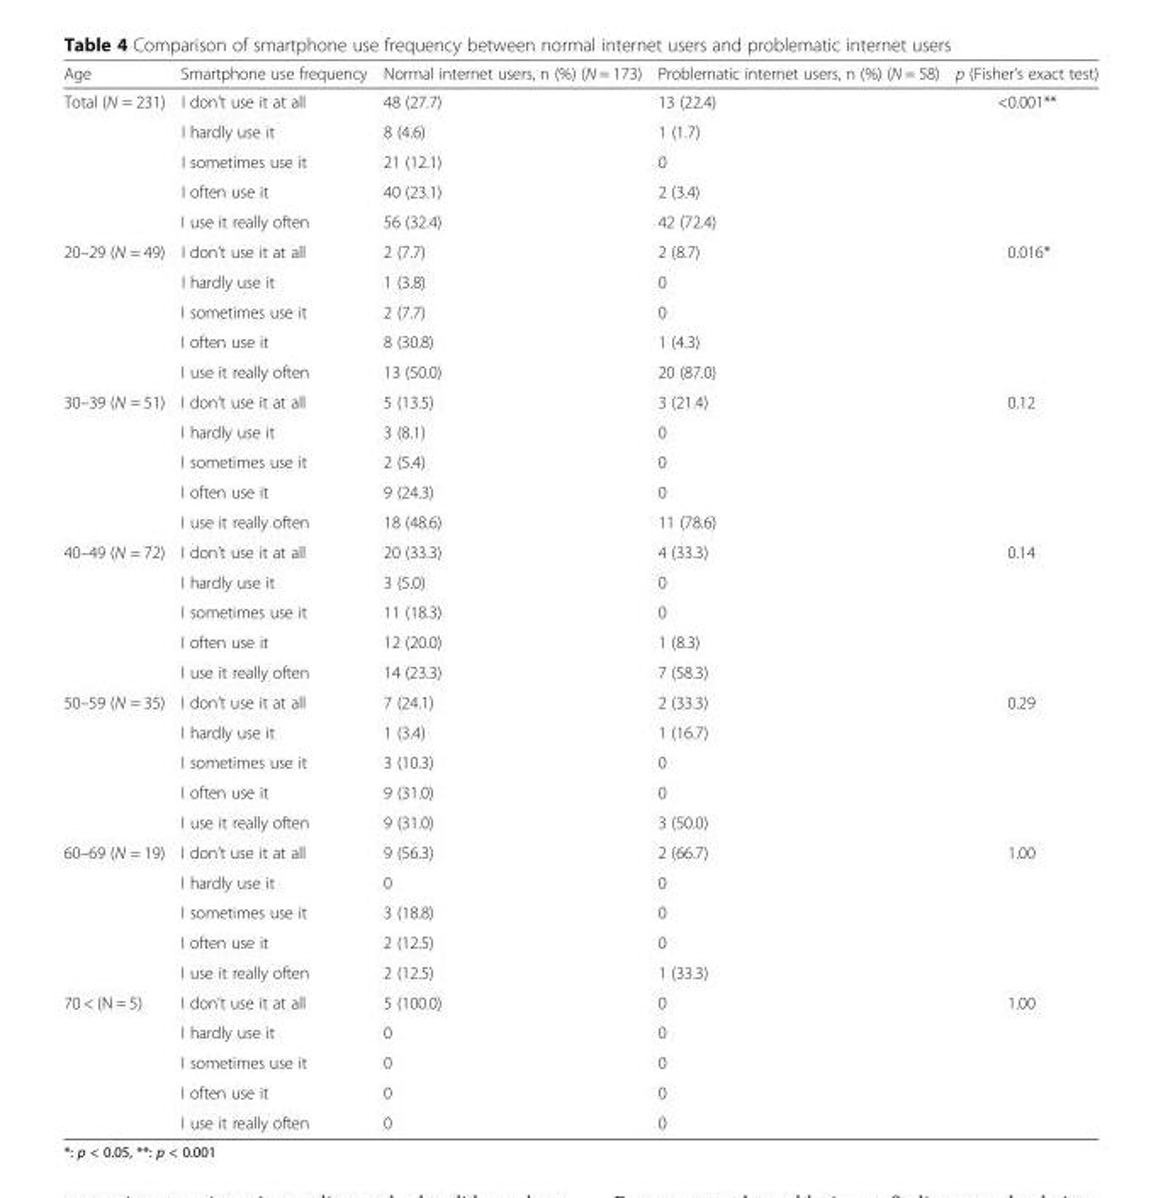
<table><thead><tr><td>Age</td><td>Smartphone use frequency</td><td>Normal internet users, n (%) (N = 173)</td><td>Problematic internet users, n (%) (N = 58)</td><td>p (Fisher’s exact test)</td></tr></thead><tbody><tr><td rowspan="5">Total (N = 231)</td><td>I don’t use it at all</td><td>48 (27.7)</td><td>13 (22.4)</td><td>&lt;0.001**</td></tr><tr><td>I hardly use it</td><td>8 (4.6)</td><td>1 (1.7)</td><td></td></tr><tr><td>I sometimes use it</td><td>21 (12.1)</td><td>0</td><td></td></tr><tr><td>I often use it</td><td>40 (23.1)</td><td>2 (3.4)</td><td></td></tr><tr><td>I use it really often</td><td>56 (32.4)</td><td>42 (72.4)</td><td></td></tr><tr><td rowspan="5">20–29 (N = 49)</td><td>I don’t use it at all</td><td>2 (7.7)</td><td>2 (8.7)</td><td>0.016*</td></tr><tr><td>I hardly use it</td><td>1 (3.8)</td><td>0</td><td></td></tr><tr><td>I sometimes use it</td><td>2 (7.7)</td><td>0</td><td></td></tr><tr><td>I often use it</td><td>8 (30.8)</td><td>1 (4.3)</td><td></td></tr><tr><td>I use it really often</td><td>13 (50.0)</td><td>20 (87.0)</td><td></td></tr><tr><td rowspan="5">30–39 (N = 51)</td><td>I don’t use it at all</td><td>5 (13.5)</td><td>3 (21.4)</td><td>0.12</td></tr><tr><td>I hardly use it</td><td>3 (8.1)</td><td>0</td><td></td></tr><tr><td>I sometimes use it</td><td>2 (5.4)</td><td>0</td><td></td></tr><tr><td>I often use it</td><td>9 (24.3)</td><td>0</td><td></td></tr><tr><td>I use it really often</td><td>18 (48.6)</td><td>11 (78.6)</td><td></td></tr><tr><td rowspan="5">40–49 (N = 72)</td><td>I don’t use it at all</td><td>20 (33.3)</td><td>4 (33.3)</td><td>0.14</td></tr><tr><td>I hardly use it</td><td>3 (5.0)</td><td>0</td><td></td></tr><tr><td>I sometimes use it</td><td>11 (18.3)</td><td>0</td><td></td></tr><tr><td>I often use it</td><td>12 (20.0)</td><td>1 (8.3)</td><td></td></tr><tr><td>I use it really often</td><td>14 (23.3)</td><td>7 (58.3)</td><td></td></tr><tr><td rowspan="5">50–59 (N = 35)</td><td>I don’t use it at all</td><td>7 (24.1)</td><td>2 (33.3)</td><td>0.29</td></tr><tr><td>I hardly use it</td><td>1 (3.4)</td><td>1 (16.7)</td><td></td></tr><tr><td>I sometimes use it</td><td>3 (10.3)</td><td>0</td><td></td></tr><tr><td>I often use it</td><td>9 (31.0)</td><td>0</td><td></td></tr><tr><td>I use it really often</td><td>9 (31.0)</td><td>3 (50.0)</td><td></td></tr><tr><td rowspan="5">60–69 (N = 19)</td><td>I don’t use it at all</td><td>9 (56.3)</td><td>2 (66.7)</td><td>1.00</td></tr><tr><td>I hardly use it</td><td>0</td><td>0</td><td></td></tr><tr><td>I sometimes use it</td><td>3 (18.8)</td><td>0</td><td></td></tr><tr><td>I often use it</td><td>2 (12.5)</td><td>0</td><td></td></tr><tr><td>I use it really often</td><td>2 (12.5)</td><td>1 (33.3)</td><td></td></tr><tr><td rowspan="5">70 &lt; (N = 5)</td><td>I don’t use it at all</td><td>5 (100.0)</td><td>0</td><td>1.00</td></tr><tr><td>I hardly use it</td><td>0</td><td>0</td><td></td></tr><tr><td>I sometimes use it</td><td>0</td><td>0</td><td></td></tr><tr><td>I often use it</td><td>0</td><td>0</td><td></td></tr><tr><td>I use it really often</td><td>0</td><td>0</td><td></td></tr></tbody></table>